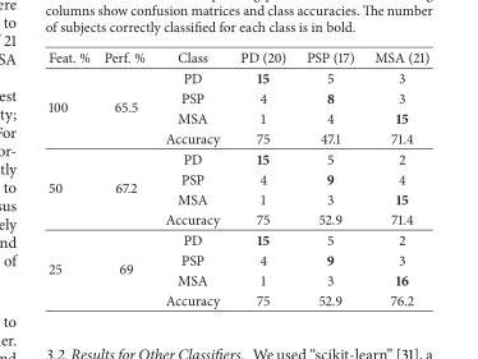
<table><thead><tr><td>Feat. %</td><td>Perf. %</td><td>Class</td><td>PD (20)</td><td>PSP (17)</td><td>MSA (21)</td></tr></thead><tbody><tr><td rowspan="4">100</td><td rowspan="4">65.5</td><td>PD</td><td>15</td><td>5</td><td>3</td></tr><tr><td>PSP</td><td>4</td><td>8</td><td>3</td></tr><tr><td>MSA</td><td>1</td><td>4</td><td>15</td></tr><tr><td>Accuracy</td><td>75</td><td>47.1</td><td>71.4</td></tr><tr><td rowspan="4">50</td><td rowspan="4">67.2</td><td>PD</td><td>15</td><td>5</td><td>2</td></tr><tr><td>PSP</td><td>4</td><td>9</td><td>4</td></tr><tr><td>MSA</td><td>1</td><td>3</td><td>15</td></tr><tr><td>Accuracy</td><td>75</td><td>52.9</td><td>71.4</td></tr><tr><td rowspan="4">25</td><td rowspan="4">69</td><td>PD</td><td>15</td><td>5</td><td>2</td></tr><tr><td>PSP</td><td>4</td><td>9</td><td>3</td></tr><tr><td>MSA</td><td>1</td><td>3</td><td>16</td></tr><tr><td>Accuracy</td><td>75</td><td>52.9</td><td>76.2</td></tr></tbody></table>